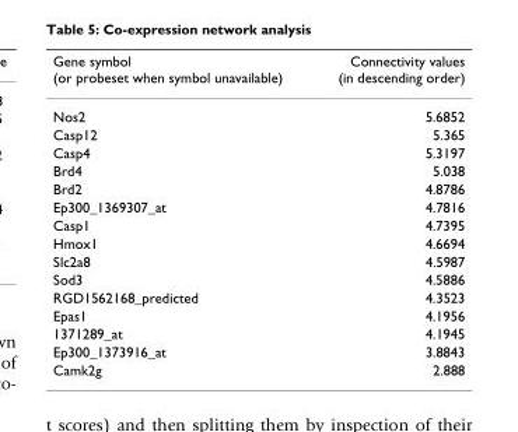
<table><thead><tr><td>Gene symbol (or probeset when symbol unavailable)</td><td>Connectivity values (in descending order)</td></tr></thead><tbody><tr><td>Nos2</td><td>5.6852</td></tr><tr><td>Casp12</td><td>5.365</td></tr><tr><td>Casp4</td><td>5.3197</td></tr><tr><td>Brd4</td><td>5.038</td></tr><tr><td>Brd2</td><td>4.8786</td></tr><tr><td>Ep300_1369307_at</td><td>4.7816</td></tr><tr><td>Casp1</td><td>4.7395</td></tr><tr><td>Hmox1</td><td>4.6694</td></tr><tr><td>Slc2a8</td><td>4.5987</td></tr><tr><td>Sod3</td><td>4.5886</td></tr><tr><td>RGD1562168_predicted</td><td>4.3523</td></tr><tr><td>Epas1</td><td>4.1956</td></tr><tr><td>1371289_at</td><td>4.1945</td></tr><tr><td>Ep300_1373916_at</td><td>3.8843</td></tr><tr><td>Camk2g</td><td>2.888</td></tr></tbody></table>